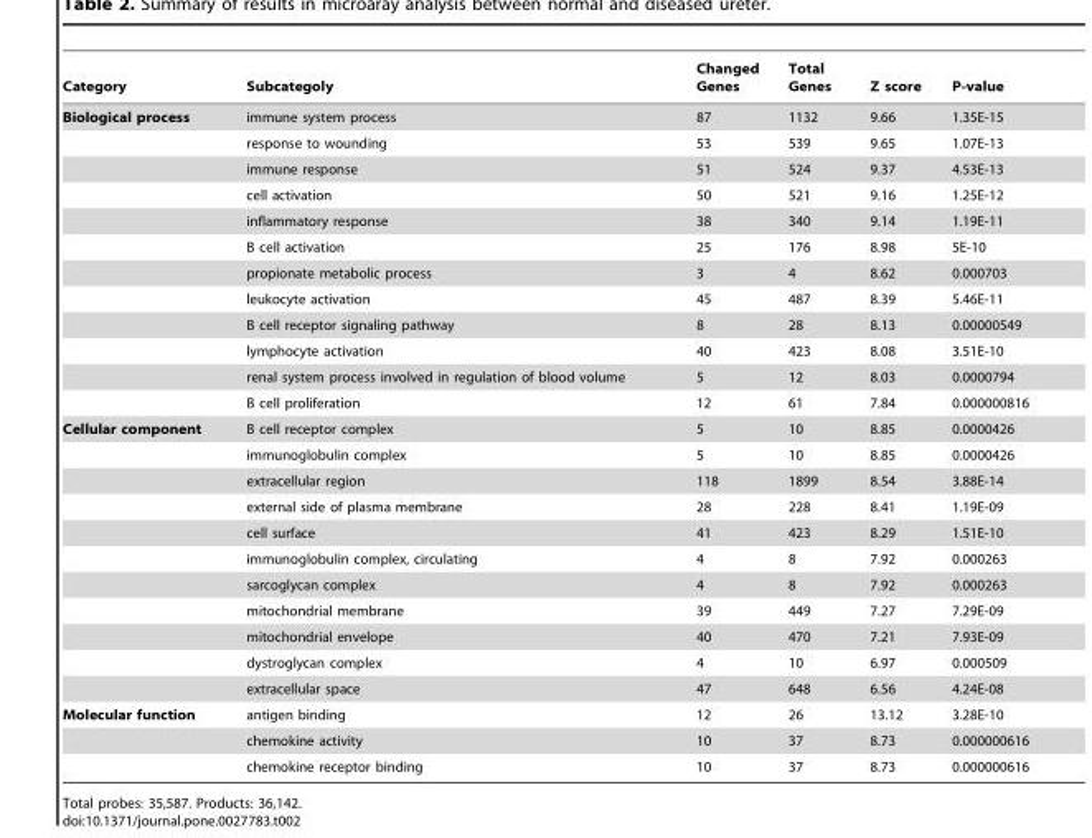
<table><thead><tr><td>Category</td><td>Subcategoly</td><td>Changed Genes</td><td>Total Genes</td><td>Z score</td><td>P-value</td></tr></thead><tbody><tr><td rowspan="12">Biological process</td><td>immune system process</td><td>87</td><td>1132</td><td>9.66</td><td>1.35E-15</td></tr><tr><td>response to wounding</td><td>53</td><td>539</td><td>9.65</td><td>1.07E-13</td></tr><tr><td>immune response</td><td>51</td><td>524</td><td>9.37</td><td>4.53E-13</td></tr><tr><td>cell activation</td><td>50</td><td>521</td><td>9.16</td><td>1.25E-12</td></tr><tr><td>inflammatory response</td><td>38</td><td>340</td><td>9.14</td><td>1.19E-11</td></tr><tr><td>B cell activation</td><td>25</td><td>176</td><td>8.98</td><td>5E-10</td></tr><tr><td>propionate metabolic process</td><td>3</td><td>4</td><td>8.62</td><td>0.000703</td></tr><tr><td>leukocyte activation</td><td>45</td><td>487</td><td>8.39</td><td>5.46E-11</td></tr><tr><td>B cell receptor signaling pathway</td><td>8</td><td>28</td><td>8.13</td><td>0.00000549</td></tr><tr><td>lymphocyte activation</td><td>40</td><td>423</td><td>8.08</td><td>3.51E-10</td></tr><tr><td>renal system process involved in regulation of blood volume</td><td>5</td><td>12</td><td>8.03</td><td>0.0000794</td></tr><tr><td>B cell proliferation</td><td>12</td><td>61</td><td>7.84</td><td>0.000000816</td></tr><tr><td rowspan="11">Cellular component</td><td>B cell receptor complex</td><td>5</td><td>10</td><td>8.85</td><td>0.0000426</td></tr><tr><td>immunoglobulin complex</td><td>5</td><td>10</td><td>8.85</td><td>0.0000426</td></tr><tr><td>extracellular region</td><td>118</td><td>1899</td><td>8.54</td><td>3.88E-14</td></tr><tr><td>external side of plasma membrane</td><td>28</td><td>228</td><td>8.41</td><td>1.19E-09</td></tr><tr><td>cell surface</td><td>41</td><td>423</td><td>8.29</td><td>1.51E-10</td></tr><tr><td>immunoglobulin complex, circulating</td><td>4</td><td>8</td><td>7.92</td><td>0.000263</td></tr><tr><td>sarcoglycan complex</td><td>4</td><td>8</td><td>7.92</td><td>0.000263</td></tr><tr><td>mitochondrial membrane</td><td>39</td><td>449</td><td>7.27</td><td>7.29E-09</td></tr><tr><td>mitochondrial envelope</td><td>40</td><td>470</td><td>7.21</td><td>7.93E-09</td></tr><tr><td>dystroglycan complex</td><td>4</td><td>10</td><td>6.97</td><td>0.000509</td></tr><tr><td>extracellular space</td><td>47</td><td>648</td><td>6.56</td><td>4.24E-08</td></tr><tr><td rowspan="3">Molecular function</td><td>antigen binding</td><td>12</td><td>26</td><td>13.12</td><td>3.28E-10</td></tr><tr><td>chemokine activity</td><td>10</td><td>37</td><td>8.73</td><td>0.000000616</td></tr><tr><td>chemokine receptor binding</td><td>10</td><td>37</td><td>8.73</td><td>0.000000616</td></tr></tbody></table>